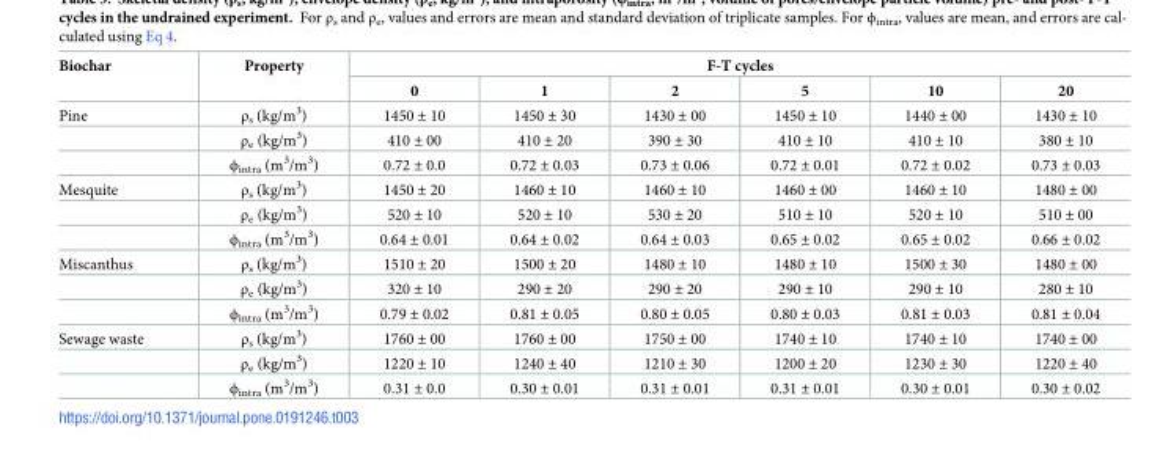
<table><thead><tr><td rowspan="2">Biochar</td><td rowspan="2">Property</td><td colspan="6">F-T cycles</td></tr><tr><td>0</td><td>1</td><td>2</td><td>5</td><td>10</td><td>20</td></tr></thead><tbody><tr><td rowspan="3">Pine</td><td>ρ<sub>s</sub> (kg/m<sup>3</sup>)</td><td>1450 ± 10</td><td>1450 ± 30</td><td>1430 ± 00</td><td>1450 ± 10</td><td>1440 ± 00</td><td>1430 ± 10</td></tr><tr><td>ρ<sub>e</sub> (kg/m<sup>3</sup>)</td><td>410 ± 00</td><td>410 ± 20</td><td>390 ± 30</td><td>410 ± 10</td><td>410 ± 10</td><td>380 ± 10</td></tr><tr><td>ϕ<sub>intra</sub> (m<sup>3</sup>/m<sup>3</sup>)</td><td>0.72 ± 0.0</td><td>0.72 ± 0.03</td><td>0.73 ± 0.06</td><td>0.72 ± 0.01</td><td>0.72 ± 0.02</td><td>0.73 ± 0.03</td></tr><tr><td rowspan="3">Mesquite</td><td>ρ<sub>s</sub> (kg/m<sup>3</sup>)</td><td>1450 ± 20</td><td>1460 ± 10</td><td>1460 ± 10</td><td>1460 ± 00</td><td>1460 ± 10</td><td>1480 ± 00</td></tr><tr><td>ρ<sub>e</sub> (kg/m<sup>3</sup>)</td><td>520 ± 10</td><td>520 ± 10</td><td>530 ± 20</td><td>510 ± 10</td><td>520 ± 10</td><td>510 ± 00</td></tr><tr><td>ϕ<sub>intra</sub> (m<sup>3</sup>/m<sup>3</sup>)</td><td>0.64 ± 0.01</td><td>0.64 ± 0.02</td><td>0.64 ± 0.03</td><td>0.65 ± 0.02</td><td>0.65 ± 0.02</td><td>0.66 ± 0.02</td></tr><tr><td rowspan="3">Miscanthus</td><td>ρ<sub>s</sub> (kg/m<sup>3</sup>)</td><td>1510 ± 20</td><td>1500 ± 20</td><td>1480 ± 10</td><td>1480 ± 10</td><td>1500 ± 30</td><td>1480 ± 00</td></tr><tr><td>ρ<sub>e</sub> (kg/m<sup>3</sup>)</td><td>320 ± 10</td><td>290 ± 20</td><td>290 ± 20</td><td>290 ± 10</td><td>290 ± 10</td><td>280 ± 10</td></tr><tr><td>ϕ<sub>intra</sub> (m<sup>3</sup>/m<sup>3</sup>)</td><td>0.79 ± 0.02</td><td>0.81 ± 0.05</td><td>0.80 ± 0.05</td><td>0.80 ± 0.03</td><td>0.81 ± 0.03</td><td>0.81 ± 0.04</td></tr><tr><td rowspan="3">Sewage waste</td><td>ρ<sub>s</sub> (kg/m<sup>3</sup>)</td><td>1760 ± 00</td><td>1760 ± 00</td><td>1750 ± 00</td><td>1740 ± 10</td><td>1740 ± 10</td><td>1740 ± 00</td></tr><tr><td>ρ<sub>e</sub> (kg/m<sup>3</sup>)</td><td>1220 ± 10</td><td>1240 ± 40</td><td>1210 ± 30</td><td>1200 ± 20</td><td>1230 ± 30</td><td>1220 ± 40</td></tr><tr><td>ϕ<sub>intra</sub> (m<sup>3</sup>/m<sup>3</sup>)</td><td>0.31 ± 0.0</td><td>0.30 ± 0.01</td><td>0.31 ± 0.01</td><td>0.31 ± 0.01</td><td>0.30 ± 0.01</td><td>0.30 ± 0.02</td></tr></tbody></table>